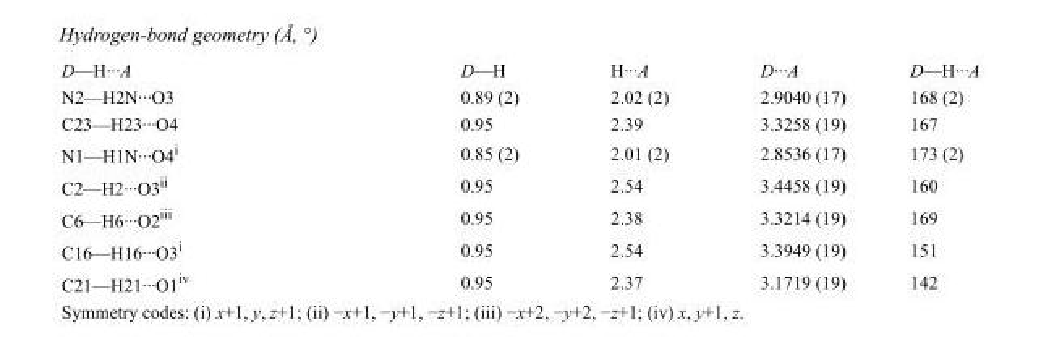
<table><tbody><tr><td>D—H···A</td><td>D—H</td><td>H···A</td><td>D···A</td><td>D—H···A</td></tr><tr><td>N2—H2N···O3</td><td>0.89 (2)</td><td>2.02 (2)</td><td>2.9040 (17)</td><td>168 (2)</td></tr><tr><td>C23—H23···O4</td><td>0.95</td><td>2.39</td><td>3.3258 (19)</td><td>167</td></tr><tr><td>N1—H1N···O4<sup>i</sup></td><td>0.85 (2)</td><td>2.01 (2)</td><td>2.8536 (17)</td><td>173 (2)</td></tr><tr><td>C2—H2···O3<sup>ii</sup></td><td>0.95</td><td>2.54</td><td>3.4458 (19)</td><td>160</td></tr><tr><td>C6—H6···O2<sup>iii</sup></td><td>0.95</td><td>2.38</td><td>3.3214 (19)</td><td>169</td></tr><tr><td>C16—H16···O3<sup>i</sup></td><td>0.95</td><td>2.54</td><td>3.3949 (19)</td><td>151</td></tr><tr><td>C21—H21···O1<sup>iv</sup></td><td>0.95</td><td>2.37</td><td>3.1719 (19)</td><td>142</td></tr></tbody></table>